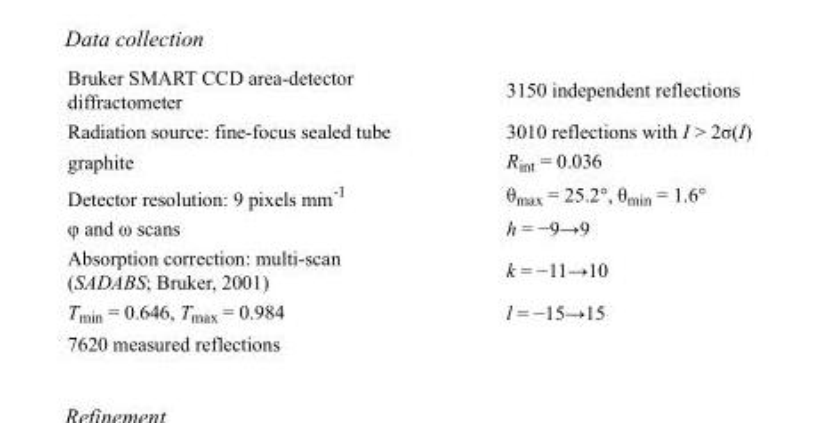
<table><tbody><tr><td>Bruker SMART CCD area-detector diffractometer</td><td>3150 independent reflections</td></tr><tr><td>Radiation source: fine-focus sealed tube</td><td>3010 reflections with I &gt; 2σ(I)</td></tr><tr><td>graphite</td><td>R<sub>int</sub> = 0.036</td></tr><tr><td>Detector resolution: 9 pixels mm<sup>-1</sup></td><td>θ<sub>max</sub> = 25.2°, θ<sub>min</sub> = 1.6°</td></tr><tr><td>φ and ω scans</td><td>h = −9→9</td></tr><tr><td>Absorption correction: multi-scan (SADABS; Bruker, 2001)</td><td>k = −11→10</td></tr><tr><td>T<sub>min</sub> = 0.646, T<sub>max</sub> = 0.984</td><td>l = −15→15</td></tr><tr><td>7620 measured reflections</td><td></td></tr></tbody></table>